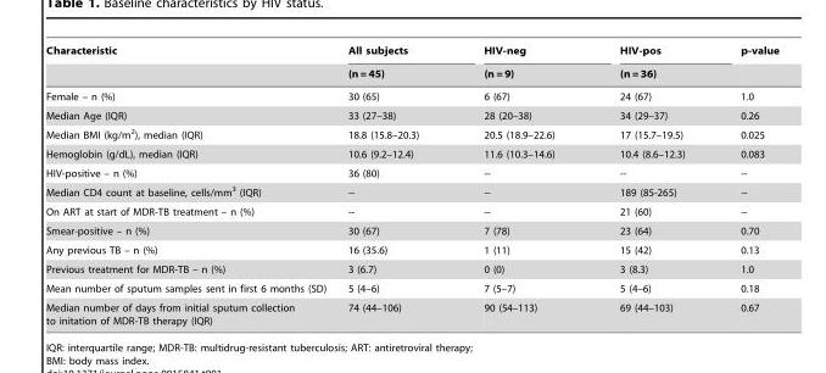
<table><thead><tr><td rowspan="2">Characteristic</td><td rowspan="2">All subjects (n = 45)</td><td rowspan="2">HIV-neg (n = 9)</td><td rowspan="2">HIV-pos (n = 36)</td><td rowspan="2">p-value</td></tr><tr></tr></thead><tbody><tr><td>Female – n (%)</td><td>30 (65)</td><td>6 (67)</td><td>24 (67)</td><td>1.0</td></tr><tr><td>Median Age (IQR)</td><td>33 (27–38)</td><td>28 (20–38)</td><td>34 (29–37)</td><td>0.26</td></tr><tr><td>Median BMI (kg/m<sup>2</sup>), median (IQR)</td><td>18.8 (15.8–20.3)</td><td>20.5 (18.9–22.6)</td><td>17 (15.7–19.5)</td><td>0.025</td></tr><tr><td>Hemoglobin (g/dL), median (IQR)</td><td>10.6 (9.2–12.4)</td><td>11.6 (10.3–14.6)</td><td>10.4 (8.6–12.3)</td><td>0.083</td></tr><tr><td>HIV-positive – n (%)</td><td>36 (80)</td><td>--</td><td>--</td><td>--</td></tr><tr><td>Median CD4 count at baseline, cells/mm<sup>3</sup> (IQR)</td><td>--</td><td>--</td><td>189 (85-265)</td><td>--</td></tr><tr><td>On ART at start of MDR-TB treatment – n (%)</td><td>--</td><td>--</td><td>21 (60)</td><td>--</td></tr><tr><td>Smear-positive – n (%)</td><td>30 (67)</td><td>7 (78)</td><td>23 (64)</td><td>0.70</td></tr><tr><td>Any previous TB – n (%)</td><td>16 (35.6)</td><td>1 (11)</td><td>15 (42)</td><td>0.13</td></tr><tr><td>Previous treatment for MDR-TB – n (%)</td><td>3 (6.7)</td><td>0 (0)</td><td>3 (8.3)</td><td>1.0</td></tr><tr><td>Mean number of sputum samples sent in first 6 months (SD)</td><td>5 (4–6)</td><td>7 (5–7)</td><td>5 (4–6)</td><td>0.18</td></tr><tr><td>Median number of days from initial sputum collection to initation of MDR-TB therapy (IQR)</td><td>74 (44–106)</td><td>90 (54–113)</td><td>69 (44–103)</td><td>0.67</td></tr></tbody></table>